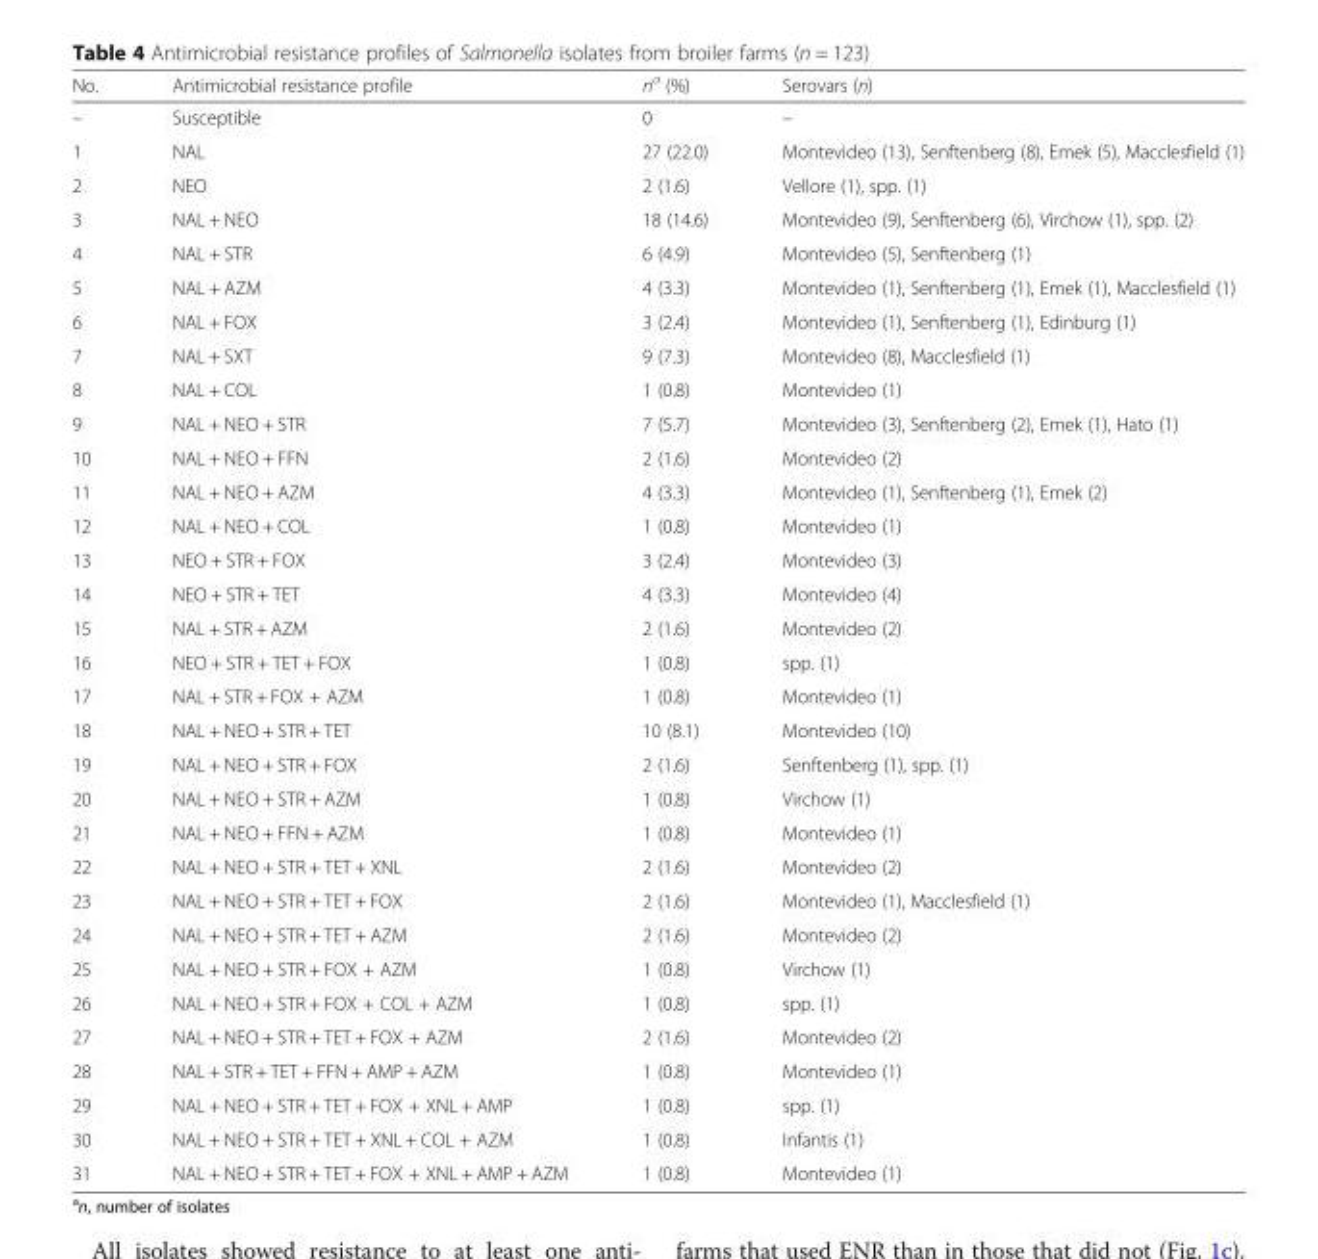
<table><thead><tr><td>No.</td><td>Antimicrobial resistance profile</td><td>n<sup>a</sup> (%)</td><td>Serovars (n)</td></tr></thead><tbody><tr><td>–</td><td>Susceptible</td><td>0</td><td>–</td></tr><tr><td>1</td><td>NAL</td><td>27 (22.0)</td><td>Montevideo (13), Senftenberg (8), Emek (5), Macclesfield (1)</td></tr><tr><td>2</td><td>NEO</td><td>2 (1.6)</td><td>Vellore (1), spp. (1)</td></tr><tr><td>3</td><td>NAL + NEO</td><td>18 (14.6)</td><td>Montevideo (9), Senftenberg (6), Virchow (1), spp. (2)</td></tr><tr><td>4</td><td>NAL + STR</td><td>6 (4.9)</td><td>Montevideo (5), Senftenberg (1)</td></tr><tr><td>5</td><td>NAL + AZM</td><td>4 (3.3)</td><td>Montevideo (1), Senftenberg (1), Emek (1), Macclesfield (1)</td></tr><tr><td>6</td><td>NAL + FOX</td><td>3 (2.4)</td><td>Montevideo (1), Senftenberg (1), Edinburg (1)</td></tr><tr><td>7</td><td>NAL + SXT</td><td>9 (7.3)</td><td>Montevideo (8), Macclesfield (1)</td></tr><tr><td>8</td><td>NAL + COL</td><td>1 (0.8)</td><td>Montevideo (1)</td></tr><tr><td>9</td><td>NAL + NEO + STR</td><td>7 (5.7)</td><td>Montevideo (3), Senftenberg (2), Emek (1), Hato (1)</td></tr><tr><td>10</td><td>NAL + NEO + FFN</td><td>2 (1.6)</td><td>Montevideo (2)</td></tr><tr><td>11</td><td>NAL + NEO + AZM</td><td>4 (3.3)</td><td>Montevideo (1), Senftenberg (1), Emek (2)</td></tr><tr><td>12</td><td>NAL + NEO + COL</td><td>1 (0.8)</td><td>Montevideo (1)</td></tr><tr><td>13</td><td>NEO + STR + FOX</td><td>3 (2.4)</td><td>Montevideo (3)</td></tr><tr><td>14</td><td>NEO + STR + TET</td><td>4 (3.3)</td><td>Montevideo (4)</td></tr><tr><td>15</td><td>NAL + STR + AZM</td><td>2 (1.6)</td><td>Montevideo (2)</td></tr><tr><td>16</td><td>NEO + STR + TET + FOX</td><td>1 (0.8)</td><td>spp. (1)</td></tr><tr><td>17</td><td>NAL + STR + FOX + AZM</td><td>1 (0.8)</td><td>Montevideo (1)</td></tr><tr><td>18</td><td>NAL + NEO + STR + TET</td><td>10 (8.1)</td><td>Montevideo (10)</td></tr><tr><td>19</td><td>NAL + NEO + STR + FOX</td><td>2 (1.6)</td><td>Senftenberg (1), spp. (1)</td></tr><tr><td>20</td><td>NAL + NEO + STR + AZM</td><td>1 (0.8)</td><td>Virchow (1)</td></tr><tr><td>21</td><td>NAL + NEO + FFN + AZM</td><td>1 (0.8)</td><td>Montevideo (1)</td></tr><tr><td>22</td><td>NAL + NEO + STR + TET + XNL</td><td>2 (1.6)</td><td>Montevideo (2)</td></tr><tr><td>23</td><td>NAL + NEO + STR + TET + FOX</td><td>2 (1.6)</td><td>Montevideo (1), Macclesfield (1)</td></tr><tr><td>24</td><td>NAL + NEO + STR + TET + AZM</td><td>2 (1.6)</td><td>Montevideo (2)</td></tr><tr><td>25</td><td>NAL + NEO + STR + FOX + AZM</td><td>1 (0.8)</td><td>Virchow (1)</td></tr><tr><td>26</td><td>NAL + NEO + STR + FOX + COL + AZM</td><td>1 (0.8)</td><td>spp. (1)</td></tr><tr><td>27</td><td>NAL + NEO + STR + TET + FOX + AZM</td><td>2 (1.6)</td><td>Montevideo (2)</td></tr><tr><td>28</td><td>NAL + STR + TET + FFN + AMP + AZM</td><td>1 (0.8)</td><td>Montevideo (1)</td></tr><tr><td>29</td><td>NAL + NEO + STR + TET + FOX + XNL + AMP</td><td>1 (0.8)</td><td>spp. (1)</td></tr><tr><td>30</td><td>NAL + NEO + STR + TET + XNL + COL + AZM</td><td>1 (0.8)</td><td>Infantis (1)</td></tr><tr><td>31</td><td>NAL + NEO + STR + TET + FOX + XNL + AMP + AZM</td><td>1 (0.8)</td><td>Montevideo (1)</td></tr></tbody></table>